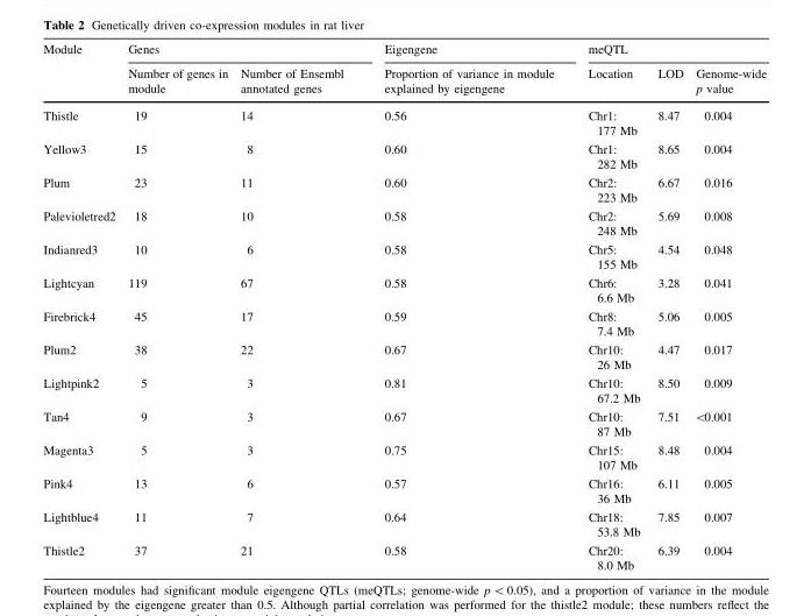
<table><thead><tr><td rowspan="2">Module</td><td colspan="2">Genes</td><td rowspan="2">Eigengene Proportion of variance in module explained by eigengene</td><td colspan="3">meQTL</td></tr><tr><td>Number of genes in module</td><td>Number of Ensembl annotated genes</td><td>Location</td><td>LOD</td><td>Genome-wide p value</td></tr></thead><tbody><tr><td>Thistle</td><td>19</td><td>14</td><td>0.56</td><td>Chr1: 177 Mb</td><td>8.47</td><td>0.004</td></tr><tr><td>Yellow3</td><td>15</td><td>8</td><td>0.60</td><td>Chr1: 282 Mb</td><td>8.65</td><td>0.004</td></tr><tr><td>Plum</td><td>23</td><td>11</td><td>0.60</td><td>Chr2: 223 Mb</td><td>6.67</td><td>0.016</td></tr><tr><td>Palevioletred2</td><td>18</td><td>10</td><td>0.58</td><td>Chr2: 248 Mb</td><td>5.69</td><td>0.008</td></tr><tr><td>Indianred3</td><td>10</td><td>6</td><td>0.58</td><td>Chr5: 155 Mb</td><td>4.54</td><td>0.048</td></tr><tr><td>Lightcyan</td><td>119</td><td>67</td><td>0.58</td><td>Chr6: 6.6 Mb</td><td>3.28</td><td>0.041</td></tr><tr><td>Firebrick4</td><td>45</td><td>17</td><td>0.59</td><td>Chr8: 7.4 Mb</td><td>5.06</td><td>0.005</td></tr><tr><td>Plum2</td><td>38</td><td>22</td><td>0.67</td><td>Chr10: 26 Mb</td><td>4.47</td><td>0.017</td></tr><tr><td>Lightpink2</td><td>5</td><td>3</td><td>0.81</td><td>Chr10: 67.2 Mb</td><td>8.50</td><td>0.009</td></tr><tr><td>Tan4</td><td>9</td><td>3</td><td>0.67</td><td>Chr10: 87 Mb</td><td>7.51</td><td>&lt;0.001</td></tr><tr><td>Magenta3</td><td>5</td><td>3</td><td>0.75</td><td>Chr15: 107 Mb</td><td>8.48</td><td>0.004</td></tr><tr><td>Pink4</td><td>13</td><td>6</td><td>0.57</td><td>Chr16: 36 Mb</td><td>6.11</td><td>0.005</td></tr><tr><td>Lightblue4</td><td>11</td><td>7</td><td>0.64</td><td>Chr18: 53.8 Mb</td><td>7.85</td><td>0.007</td></tr><tr><td>Thistle2</td><td>37</td><td>21</td><td>0.58</td><td>Chr20: 8.0 Mb</td><td>6.39</td><td>0.004</td></tr></tbody></table>